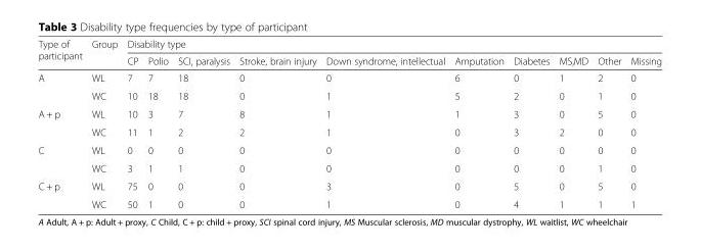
<table><thead><tr><td rowspan="2">Type of participant</td><td rowspan="2">Group</td><td colspan="10">Disability type</td></tr><tr><td>CP</td><td>Polio</td><td>SCI, paralysis</td><td>Stroke, brain injury</td><td>Down syndrome, intellectual</td><td>Amputation</td><td>Diabetes</td><td>MS,MD</td><td>Other</td><td>Missing</td></tr></thead><tbody><tr><td rowspan="2">A</td><td>WL</td><td>7</td><td>7</td><td>18</td><td>0</td><td>0</td><td>6</td><td>0</td><td>1</td><td>2</td><td>0</td></tr><tr><td>WC</td><td>10</td><td>18</td><td>18</td><td>0</td><td>1</td><td>5</td><td>2</td><td>0</td><td>1</td><td>0</td></tr><tr><td rowspan="2">A + p</td><td>WL</td><td>10</td><td>3</td><td>7</td><td>8</td><td>1</td><td>1</td><td>3</td><td>0</td><td>5</td><td>0</td></tr><tr><td>WC</td><td>11</td><td>1</td><td>2</td><td>2</td><td>1</td><td>0</td><td>3</td><td>2</td><td>0</td><td>0</td></tr><tr><td rowspan="2">C</td><td>WL</td><td>0</td><td>0</td><td>0</td><td>0</td><td>0</td><td>0</td><td>0</td><td>0</td><td>0</td><td>0</td></tr><tr><td>WC</td><td>3</td><td>1</td><td>1</td><td>0</td><td>0</td><td>0</td><td>0</td><td>0</td><td>1</td><td>0</td></tr><tr><td rowspan="2">C + p</td><td>WL</td><td>75</td><td>0</td><td>0</td><td>0</td><td>3</td><td>0</td><td>5</td><td>0</td><td>5</td><td>0</td></tr><tr><td>WC</td><td>50</td><td>1</td><td>0</td><td>0</td><td>1</td><td>0</td><td>4</td><td>1</td><td>1</td><td>1</td></tr></tbody></table>